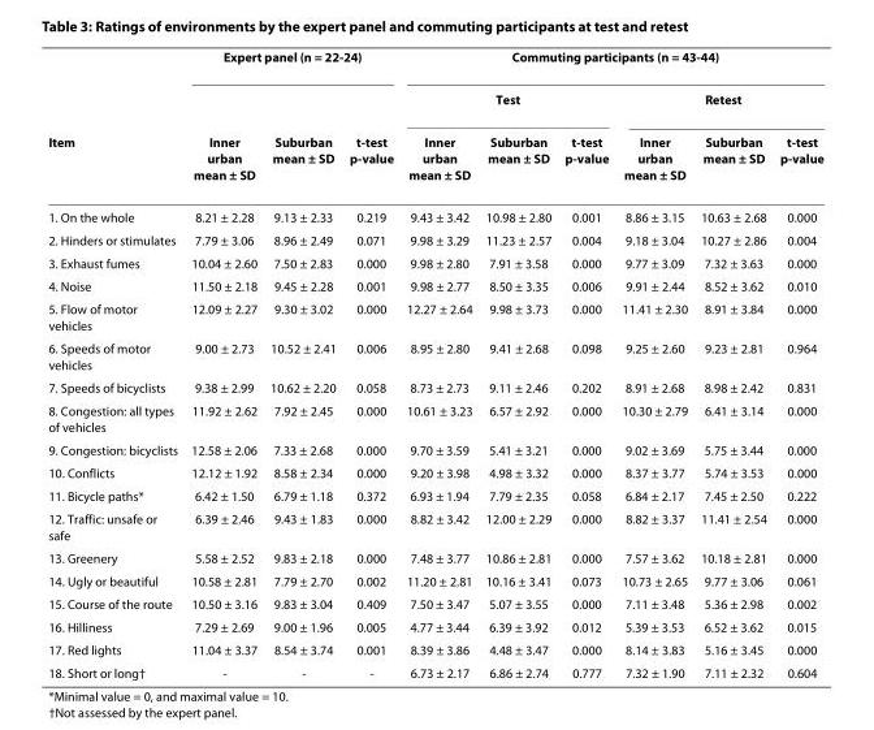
<table><thead><tr><td rowspan="3">Item</td><td colspan="3">Expert panel (n = 22-24)</td><td colspan="6">Commuting participants (n = 43-44)</td></tr><tr><td rowspan="2">Inner urban mean ± SD</td><td rowspan="2">Suburban mean ± SD</td><td rowspan="2">t-test p-value</td><td colspan="3">Test</td><td colspan="3">Retest</td></tr><tr><td>Inner urban mean ± SD</td><td>Suburban mean ± SD</td><td>t-test p-value</td><td>Inner urban mean ± SD</td><td>Suburban mean ± SD</td><td>t-test p-value</td></tr></thead><tbody><tr><td>1. On the whole</td><td>8.21 ± 2.28</td><td>9.13 ± 2.33</td><td>0.219</td><td>9.43 ± 3.42</td><td>10.98 ± 2.80</td><td>0.001</td><td>8.86 ± 3.15</td><td>10.63 ± 2.68</td><td>0.000</td></tr><tr><td>2. Hinders or stimulates</td><td>7.79 ± 3.06</td><td>8.96 ± 2.49</td><td>0.071</td><td>9.98 ± 3.29</td><td>11.23 ± 2.57</td><td>0.004</td><td>9.18 ± 3.04</td><td>10.27 ± 2.86</td><td>0.004</td></tr><tr><td>3. Exhaust fumes</td><td>10.04 ± 2.60</td><td>7.50 ± 2.83</td><td>0.000</td><td>9.98 ± 2.80</td><td>7.91 ± 3.58</td><td>0.000</td><td>9.77 ± 3.09</td><td>7.32 ± 3.63</td><td>0.000</td></tr><tr><td>4. Noise</td><td>11.50 ± 2.18</td><td>9.45 ± 2.28</td><td>0.001</td><td>9.98 ± 2.77</td><td>8.50 ± 3.35</td><td>0.006</td><td>9.91 ± 2.44</td><td>8.52 ± 3.62</td><td>0.010</td></tr><tr><td>5. Flow of motor vehicles</td><td>12.09 ± 2.27</td><td>9.30 ± 3.02</td><td>0.000</td><td>12.27 ± 2.64</td><td>9.98 ± 3.73</td><td>0.000</td><td>11.41 ± 2.30</td><td>8.91 ± 3.84</td><td>0.000</td></tr><tr><td>6. Speeds of motor vehicles</td><td>9.00 ± 2.73</td><td>10.52 ± 2.41</td><td>0.006</td><td>8.95 ± 2.80</td><td>9.41 ± 2.68</td><td>0.098</td><td>9.25 ± 2.60</td><td>9.23 ± 2.81</td><td>0.964</td></tr><tr><td>7. Speeds of bicyclists</td><td>9.38 ± 2.99</td><td>10.62 ± 2.20</td><td>0.058</td><td>8.73 ± 2.73</td><td>9.11 ± 2.46</td><td>0.202</td><td>8.91 ± 2.68</td><td>8.98 ± 2.42</td><td>0.831</td></tr><tr><td>8. Congestion: all types of vehicles</td><td>11.92 ± 2.62</td><td>7.92 ± 2.45</td><td>0.000</td><td>10.61 ± 3.23</td><td>6.57 ± 2.92</td><td>0.000</td><td>10.30 ± 2.79</td><td>6.41 ± 3.14</td><td>0.000</td></tr><tr><td>9. Congestion: bicyclists</td><td>12.58 ± 2.06</td><td>7.33 ± 2.68</td><td>0.000</td><td>9.70 ± 3.59</td><td>5.41 ± 3.21</td><td>0.000</td><td>9.02 ± 3.69</td><td>5.75 ± 3.44</td><td>0.000</td></tr><tr><td>10. Conflicts</td><td>12.12 ± 1.92</td><td>8.58 ± 2.34</td><td>0.000</td><td>9.20 ± 3.98</td><td>4.98 ± 3.32</td><td>0.000</td><td>8.37 ± 3.77</td><td>5.74 ± 3.53</td><td>0.000</td></tr><tr><td>11. Bicycle paths*</td><td>6.42 ± 1.50</td><td>6.79 ± 1.18</td><td>0.372</td><td>6.93 ± 1.94</td><td>7.79 ± 2.35</td><td>0.058</td><td>6.84 ± 2.17</td><td>7.45 ± 2.50</td><td>0.222</td></tr><tr><td>12. Traffic: unsafe or safe</td><td>6.39 ± 2.46</td><td>9.43 ± 1.83</td><td>0.000</td><td>8.82 ± 3.42</td><td>12.00 ± 2.29</td><td>0.000</td><td>8.82 ± 3.37</td><td>11.41 ± 2.54</td><td>0.000</td></tr><tr><td>13. Greenery</td><td>5.58 ± 2.52</td><td>9.83 ± 2.18</td><td>0.000</td><td>7.48 ± 3.77</td><td>10.86 ± 2.81</td><td>0.000</td><td>7.57 ± 3.62</td><td>10.18 ± 2.81</td><td>0.000</td></tr><tr><td>14. Ugly or beautiful</td><td>10.58 ± 2.81</td><td>7.79 ± 2.70</td><td>0.002</td><td>11.20 ± 2.81</td><td>10.16 ± 3.41</td><td>0.073</td><td>10.73 ± 2.65</td><td>9.77 ± 3.06</td><td>0.061</td></tr><tr><td>15. Course of the route</td><td>10.50 ± 3.16</td><td>9.83 ± 3.04</td><td>0.409</td><td>7.50 ± 3.47</td><td>5.07 ± 3.55</td><td>0.000</td><td>7.11 ± 3.48</td><td>5.36 ± 2.98</td><td>0.002</td></tr><tr><td>16. Hilliness</td><td>7.29 ± 2.69</td><td>9.00 ± 1.96</td><td>0.005</td><td>4.77 ± 3.44</td><td>6.39 ± 3.92</td><td>0.012</td><td>5.39 ± 3.53</td><td>6.52 ± 3.62</td><td>0.015</td></tr><tr><td>17. Red lights</td><td>11.04 ± 3.37</td><td>8.54 ± 3.74</td><td>0.001</td><td>8.39 ± 3.86</td><td>4.48 ± 3.47</td><td>0.000</td><td>8.14 ± 3.83</td><td>5.16 ± 3.45</td><td>0.000</td></tr><tr><td>18. Short or long†</td><td>-</td><td>-</td><td>-</td><td>6.73 ± 2.17</td><td>6.86 ± 2.74</td><td>0.777</td><td>7.32 ± 1.90</td><td>7.11 ± 2.32</td><td>0.604</td></tr></tbody></table>